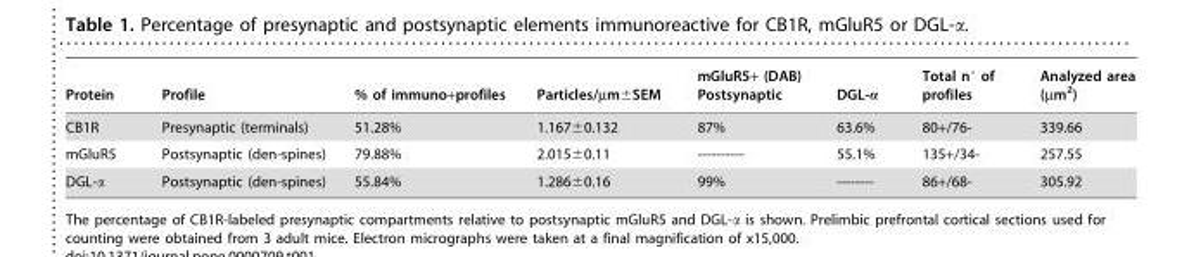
<table><thead><tr><td>Protein</td><td>Profile</td><td>% of immuno+profiles</td><td>Particles/µm±SEM</td><td>mGluR5+ (DAB) Postsynaptic</td><td>DGL-α</td><td>Total n° of profiles</td><td>Analyzed area (µm<sup>2</sup>)</td></tr></thead><tbody><tr><td>CB1R</td><td>Presynaptic (terminals)</td><td>51.28%</td><td>1.167±0.132</td><td>87%</td><td>63.6%</td><td>80+/76-</td><td>339.66</td></tr><tr><td>mGluR5</td><td>Postsynaptic (den-spines)</td><td>79.88%</td><td>2.015±0.11</td><td>----------</td><td>55.1%</td><td>135+/34-</td><td>257.55</td></tr><tr><td>DGL-α</td><td>Postsynaptic (den-spines)</td><td>55.84%</td><td>1.286±0.16</td><td>99%</td><td>--------</td><td>86+/68-</td><td>305.92</td></tr></tbody></table>